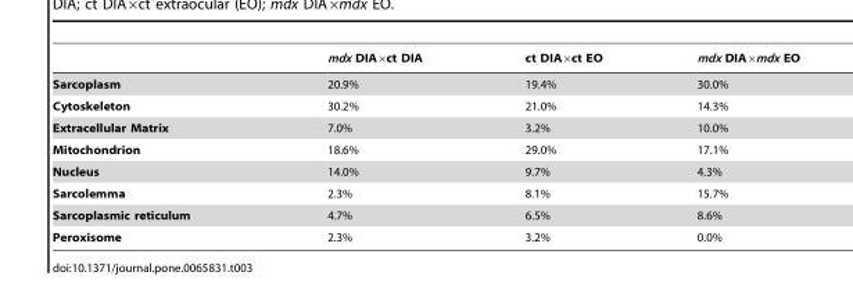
<table><thead><tr><td></td><td>mdx DIA×ct DIA</td><td>ct DIA×ct EO</td><td>mdx DIA×mdx EO</td></tr></thead><tbody><tr><td>Sarcoplasm</td><td>20.9%</td><td>19.4%</td><td>30.0%</td></tr><tr><td>Cytoskeleton</td><td>30.2%</td><td>21.0%</td><td>14.3%</td></tr><tr><td>Extracellular Matrix</td><td>7.0%</td><td>3.2%</td><td>10.0%</td></tr><tr><td>Mitochondrion</td><td>18.6%</td><td>29.0%</td><td>17.1%</td></tr><tr><td>Nucleus</td><td>14.0%</td><td>9.7%</td><td>4.3%</td></tr><tr><td>Sarcolemma</td><td>2.3%</td><td>8.1%</td><td>15.7%</td></tr><tr><td>Sarcoplasmic reticulum</td><td>4.7%</td><td>6.5%</td><td>8.6%</td></tr><tr><td>Peroxisome</td><td>2.3%</td><td>3.2%</td><td>0.0%</td></tr></tbody></table>